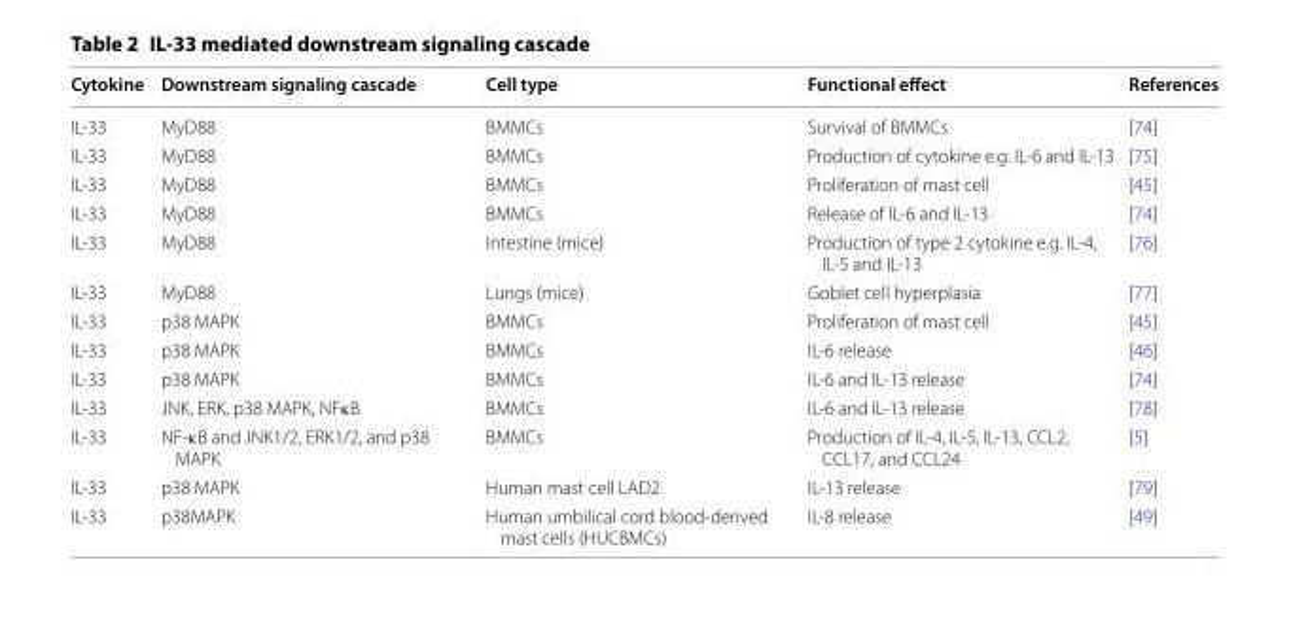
<table><thead><tr><td>Cytokine</td><td>Downstream signaling cascade</td><td>Cell type</td><td>Functional effect</td><td>References</td></tr></thead><tbody><tr><td>IL-33</td><td>MyD88</td><td>BMMCs</td><td>Survival of BMMCs</td><td>[74]</td></tr><tr><td>IL-33</td><td>MyD88</td><td>BMMCs</td><td>Production of cytokine e.g. IL-6 and IL-13</td><td>[75]</td></tr><tr><td>IL-33</td><td>MyD88</td><td>BMMCs</td><td>Proliferation of mast cell</td><td>[45]</td></tr><tr><td>IL-33</td><td>MyD88</td><td>BMMCs</td><td>Release of IL-6 and IL-13</td><td>[74]</td></tr><tr><td>IL-33</td><td>MyD88</td><td>Intestine (mice)</td><td>Production of type 2 cytokine e.g. IL-4, IL-5 and IL-13</td><td>[76]</td></tr><tr><td>IL-33</td><td>MyD88</td><td>Lungs (mice)</td><td>Goblet cell hyperplasia</td><td>[77]</td></tr><tr><td>IL-33</td><td>p38 MAPK</td><td>BMMCs</td><td>Proliferation of mast cell</td><td>[45]</td></tr><tr><td>IL-33</td><td>p38 MAPK</td><td>BMMCs</td><td>IL-6 release</td><td>[46]</td></tr><tr><td>IL-33</td><td>p38 MAPK</td><td>BMMCs</td><td>IL-6 and IL-13 release</td><td>[74]</td></tr><tr><td>IL-33</td><td>JNK, ERK, p38 MAPK, NFκB</td><td>BMMCs</td><td>IL-6 and IL-13 release</td><td>[78]</td></tr><tr><td>IL-33</td><td>NF-κB and JNK1/2, ERK1/2, and p38 MAPK</td><td>BMMCs</td><td>Production of IL-4, IL-5, IL-13, CCL2, CCL17, and CCL24</td><td>[5]</td></tr><tr><td>IL-33</td><td>p38 MAPK</td><td>Human mast cell LAD2</td><td>IL-13 release</td><td>[79]</td></tr><tr><td>IL-33</td><td>p38MAPK</td><td>Human umbilical cord blood-derived mast cells (HUCBMCs)</td><td>IL-8 release</td><td>[49]</td></tr></tbody></table>